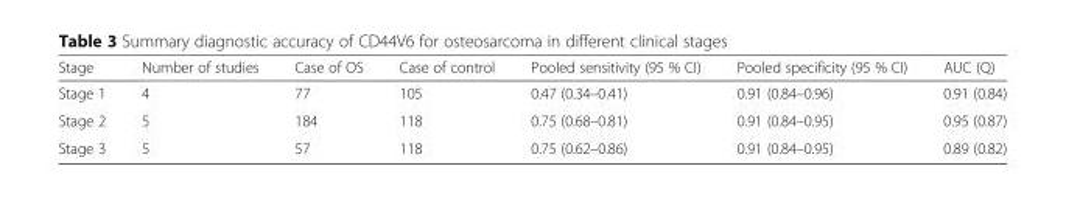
<table><thead><tr><td>Stage</td><td>Number of studies</td><td>Case of OS</td><td>Case of control</td><td>Pooled sensitivity (95 % CI)</td><td>Pooled specificity (95 % CI)</td><td>AUC (Q)</td></tr></thead><tbody><tr><td>Stage 1</td><td>4</td><td>77</td><td>105</td><td>0.47 (0.34–0.41)</td><td>0.91 (0.84–0.96)</td><td>0.91 (0.84)</td></tr><tr><td>Stage 2</td><td>5</td><td>184</td><td>118</td><td>0.75 (0.68–0.81)</td><td>0.91 (0.84–0.95)</td><td>0.95 (0.87)</td></tr><tr><td>Stage 3</td><td>5</td><td>57</td><td>118</td><td>0.75 (0.62–0.86)</td><td>0.91 (0.84–0.95)</td><td>0.89 (0.82)</td></tr></tbody></table>